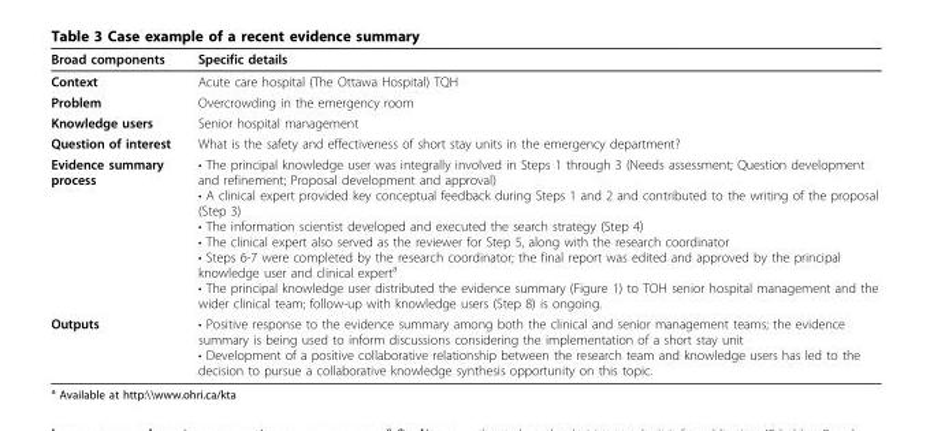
<table><thead><tr><td>Broad components</td><td>Specific details</td></tr></thead><tbody><tr><td>Context</td><td>Acute care hospital (The Ottawa Hospital) TQH</td></tr><tr><td>Problem</td><td>Overcrowding in the emergency room</td></tr><tr><td>Knowledge users</td><td>Senior hospital management</td></tr><tr><td>Question of interest</td><td>What is the safety and effectiveness of short stay units in the emergency department?</td></tr><tr><td>Evidence summary process</td><td>• The principal knowledge user was integrally involved in Steps 1 through 3 (Needs assessment; Question development and refinement; Proposal development and approval) • A clinical expert provided key conceptual feedback during Steps 1 and 2 and contributed to the writing of the proposal (Step 3) • The information scientist developed and executed the search strategy (Step 4) • The clinical expert also served as the reviewer for Step 5, along with the research coordinator • Steps 6-7 were completed by the research coordinator; the final report was edited and approved by the principal knowledge user and clinical expert<sup>a</sup> • The principal knowledge user distributed the evidence summary (Figure 1) to TOH senior hospital management and the wider clinical team; follow-up with knowledge users (Step 8) is ongoing.</td></tr><tr><td>Outputs</td><td>• Positive response to the evidence summary among both the clinical and senior management teams; the evidence summary is being used to inform discussions considering the implementation of a short stay unit • Development of a positive collaborative relationship between the research team and knowledge users has led to the decision to pursue a collaborative knowledge synthesis opportunity on this topic.</td></tr></tbody></table>